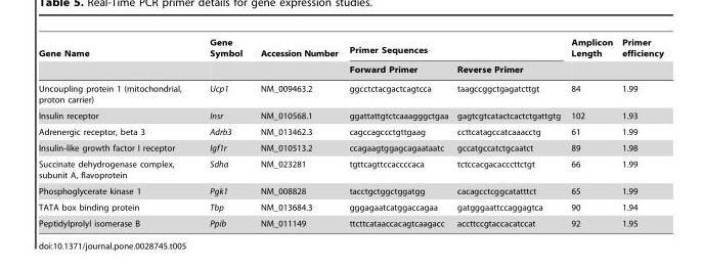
<table><thead><tr><td rowspan="2">Gene Name</td><td rowspan="2">Gene Symbol</td><td rowspan="2">Accession Number</td><td colspan="2">Primer Sequences</td><td rowspan="2">Amplicon Length</td><td rowspan="2">Primer efficiency</td></tr><tr><td>Forward Primer</td><td>Reverse Primer</td></tr></thead><tbody><tr><td>Uncoupling protein 1 (mitochondrial, proton carrier)</td><td>Ucp1</td><td>NM_009463.2</td><td>ggcctctacgactcagtcca</td><td>taagccggctgagatcttgt</td><td>84</td><td>1.99</td></tr><tr><td>Insulin receptor</td><td>Insr</td><td>NM_010568.1</td><td>ggattattgtctcaaagggctgaa</td><td>gagtcgtcatactcactctgattgtg</td><td>102</td><td>1.93</td></tr><tr><td>Adrenergic receptor, beta 3</td><td>Adrb3</td><td>NM_013462.3</td><td>cagccagccctgttgaag</td><td>ccttcatagccatcaaacctg</td><td>61</td><td>1.99</td></tr><tr><td>Insulin-like growth factor I receptor</td><td>Igf1r</td><td>NM_010513.2</td><td>ccagaagtggagcagaataatc</td><td>gccatgccatctgcaatct</td><td>89</td><td>1.98</td></tr><tr><td>Succinate dehydrogenase complex, subunit A, flavoprotein</td><td>Sdha</td><td>NM_023281</td><td>tgttcagttccaccccaca</td><td>tctccacgacacccttctgt</td><td>66</td><td>1.99</td></tr><tr><td>Phosphoglycerate kinase 1</td><td>Pgk1</td><td>NM_008828</td><td>tacctgctggctggatgg</td><td>cacagcctcggcatatttct</td><td>65</td><td>1.99</td></tr><tr><td>TATA box binding protein</td><td>Tbp</td><td>NM_013684.3</td><td>gggagaatcatggaccagaa</td><td>gatgggaattccaggagtca</td><td>90</td><td>1.94</td></tr><tr><td>Peptidylprolyl isomerase B</td><td>Ppib</td><td>NM_011149</td><td>ttcttcataaccacagtcaagacc</td><td>accttccgtaccacatccat</td><td>92</td><td>1.95</td></tr></tbody></table>